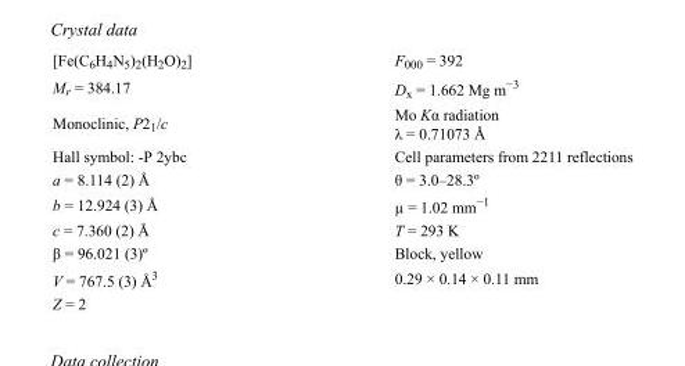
<table><tbody><tr><td>[Fe(C<sub>6</sub>H<sub>4</sub>N<sub>5</sub>)<sub>2</sub>(H<sub>2</sub>O)<sub>2</sub>]</td><td>F000 = 392</td></tr><tr><td>M<sub>r</sub> = 384.17</td><td>D<sub>x</sub> = 1.662 Mg m<sup>−3</sup></td></tr><tr><td>Monoclinic, P2<sub>1</sub>/c</td><td>Mo Kα radiation λ = 0.71073 Å</td></tr><tr><td>Hall symbol: -P 2ybc</td><td>Cell parameters from 2211 reflections</td></tr><tr><td>a = 8.114 (2) Å</td><td>θ = 3.0–28.3º</td></tr><tr><td>b = 12.924 (3) Å</td><td>µ = 1.02 mm−1</td></tr><tr><td>c = 7.360 (2) Å</td><td>T = 293 K</td></tr><tr><td>β = 96.021 (3)º</td><td>Block, yellow</td></tr><tr><td>V = 767.5 (3) Å<sup>3</sup></td><td>0.29 × 0.14 × 0.11 mm</td></tr><tr><td>Z = 2</td><td></td></tr></tbody></table>